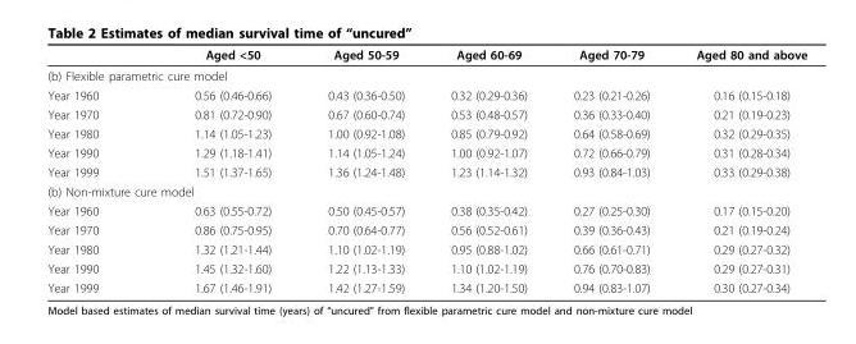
<table><thead><tr><td></td><td>Aged &lt;50</td><td>Aged 50-59</td><td>Aged 60-69</td><td>Aged 70-79</td><td>Aged 80 and above</td></tr></thead><tbody><tr><td colspan="6">(b) Flexible parametric cure model</td></tr><tr><td>Year 1960</td><td>0.56 (0.46-0.66)</td><td>0.43 (0.36-0.50)</td><td>0.32 (0.29-0.36)</td><td>0.23 (0.21-0.26)</td><td>0.16 (0.15-0.18)</td></tr><tr><td>Year 1970</td><td>0.81 (0.72-0.90)</td><td>0.67 (0.60-0.74)</td><td>0.53 (0.48-0.57)</td><td>0.36 (0.33-0.40)</td><td>0.21 (0.19-0.23)</td></tr><tr><td>Year 1980</td><td>1.14 (1.05-1.23)</td><td>1.00 (0.92-1.08)</td><td>0.85 (0.79-0.92)</td><td>0.64 (0.58-0.69)</td><td>0.32 (0.29-0.35)</td></tr><tr><td>Year 1990</td><td>1.29 (1.18-1.41)</td><td>1.14 (1.05-1.24)</td><td>1.00 (0.92-1.07)</td><td>0.72 (0.66-0.79)</td><td>0.31 (0.28-0.34)</td></tr><tr><td>Year 1999</td><td>1.51 (1.37-1.65)</td><td>1.36 (1.24-1.48)</td><td>1.23 (1.14-1.32)</td><td>0.93 (0.84-1.03)</td><td>0.33 (0.29-0.38)</td></tr><tr><td colspan="6">(b) Non-mixture cure model</td></tr><tr><td>Year 1960</td><td>0.63 (0.55-0.72)</td><td>0.50 (0.45-0.57)</td><td>0.38 (0.35-0.42)</td><td>0.27 (0.25-0.30)</td><td>0.17 (0.15-0.20)</td></tr><tr><td>Year 1970</td><td>0.86 (0.75-0.95)</td><td>0.70 (0.64-0.77)</td><td>0.56 (0.52-0.61)</td><td>0.39 (0.36-0.43)</td><td>0.21 (0.19-0.24)</td></tr><tr><td>Year 1980</td><td>1.32 (1.21-1.44)</td><td>1.10 (1.02-1.19)</td><td>0.95 (0.88-1.02)</td><td>0.66 (0.61-0.71)</td><td>0.29 (0.27-0.32)</td></tr><tr><td>Year 1990</td><td>1.45 (1.32-1.60)</td><td>1.22 (1.13-1.33)</td><td>1.10 (1.02-1.19)</td><td>0.76 (0.70-0.83)</td><td>0.29 (0.27-0.31)</td></tr><tr><td>Year 1999</td><td>1.67 (1.46-1.91)</td><td>1.42 (1.27-1.59)</td><td>1.34 (1.20-1.50)</td><td>0.94 (0.83-1.07)</td><td>0.30 (0.27-0.34)</td></tr></tbody></table>